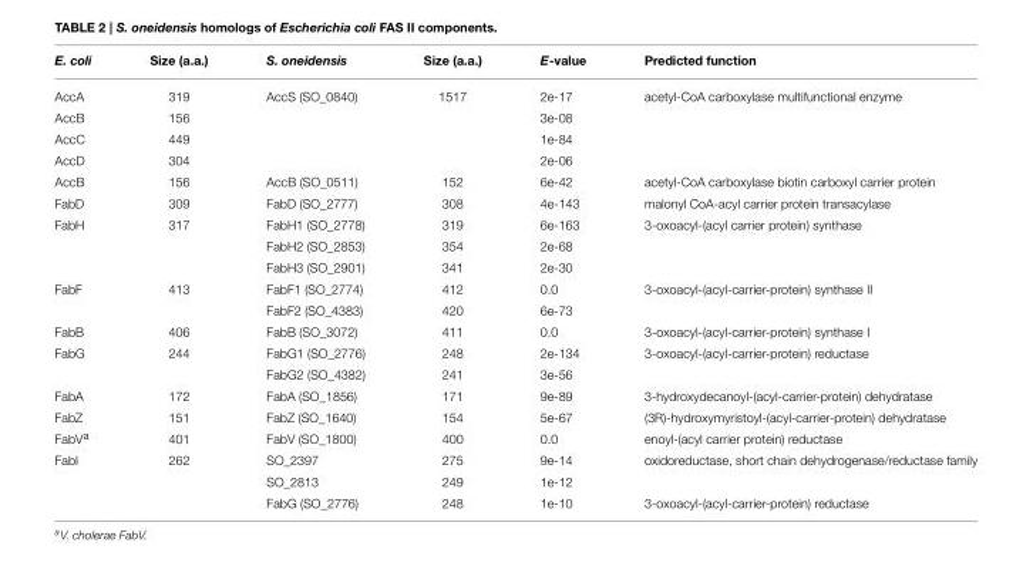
<table><thead><tr><td>E. coli</td><td>Size (a.a.)</td><td>S. oneidensis</td><td>Size (a.a.)</td><td>E-value</td><td>Predicted function</td></tr></thead><tbody><tr><td>AccA</td><td>319</td><td>AccS (SO_0840)</td><td>1517</td><td>2e-17</td><td>acetyl-CoA carboxylase multifunctional enzyme</td></tr><tr><td>AccB</td><td>156</td><td></td><td></td><td>3e-08</td><td></td></tr><tr><td>AccC</td><td>449</td><td></td><td></td><td>1e-84</td><td></td></tr><tr><td>AccD</td><td>304</td><td></td><td></td><td>2e-06</td><td></td></tr><tr><td>AccB</td><td>156</td><td>AccB (SO_0511)</td><td>152</td><td>6e-42</td><td>acetyl-CoA carboxylase biotin carboxyl carrier protein</td></tr><tr><td>FabD</td><td>309</td><td>FabD (SO_2777)</td><td>308</td><td>4e-143</td><td>malonyl CoA-acyl carrier protein transacylase</td></tr><tr><td rowspan="3">FabH</td><td>317</td><td>FabH1 (SO_2778)</td><td>319</td><td>6e-163</td><td>3-oxoacyl-(acyl carrier protein) synthase</td></tr><tr><td></td><td>FabH2 (SO_2853)</td><td>354</td><td>2e-68</td><td></td></tr><tr><td></td><td>FabH3 (SO_2901)</td><td>341</td><td>2e-30</td><td></td></tr><tr><td rowspan="2">FabF</td><td>413</td><td>FabF1 (SO_2774)</td><td>412</td><td>0.0</td><td>3-oxoacyl-(acyl-carrier-protein) synthase II</td></tr><tr><td></td><td>FabF2 (SO_4383)</td><td>420</td><td>6e-73</td><td></td></tr><tr><td>FabB</td><td>406</td><td>FabB (SO_3072)</td><td>411</td><td>0.0</td><td>3-oxoacyl-(acyl-carrier-protein) synthase I</td></tr><tr><td rowspan="2">FabG</td><td>244</td><td>FabG1 (SO_2776)</td><td>248</td><td>2e-134</td><td>3-oxoacyl-(acyl-carrier-protein) reductase</td></tr><tr><td></td><td>FabG2 (SO_4382)</td><td>241</td><td>3e-56</td><td></td></tr><tr><td>FabA</td><td>172</td><td>FabA (SO_1856)</td><td>171</td><td>9e-89</td><td>3-hydroxydecanoyl-(acyl-carrier-protein) dehydratase</td></tr><tr><td>FabZ</td><td>151</td><td>FabZ (SO_1640)</td><td>154</td><td>5e-67</td><td>(3R)-hydroxymyristoyl-(acyl-carrier-protein) dehydratase</td></tr><tr><td>FabV<sup>a</sup></td><td>401</td><td>FabV (SO_1800)</td><td>400</td><td>0.0</td><td>enoyl-(acyl carrier protein) reductase</td></tr><tr><td rowspan="3">FabI</td><td>262</td><td>SO_2397</td><td>275</td><td>9e-14</td><td>oxidoreductase, short chain dehydrogenase/reductase family</td></tr><tr><td></td><td>SO_2813</td><td>249</td><td>1e-12</td><td></td></tr><tr><td></td><td>FabG (SO_2776)</td><td>248</td><td>1e-10</td><td>3-oxoacyl-(acyl-carrier-protein) reductase</td></tr></tbody></table>